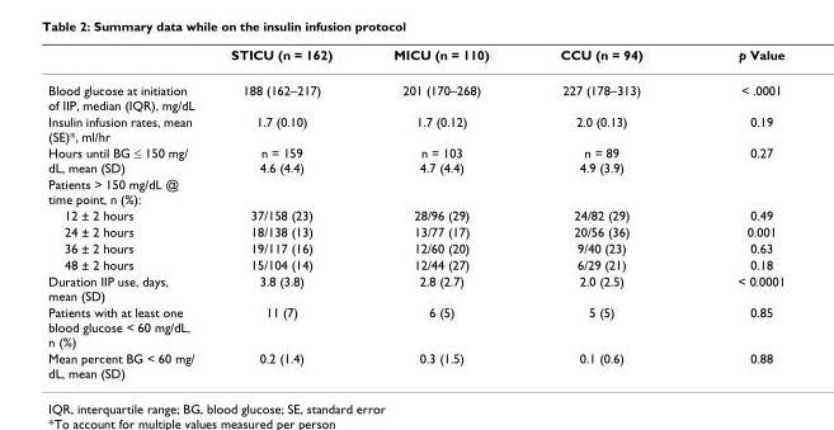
<table><thead><tr><td></td><td>STICU (n = 162)</td><td>MICU (n = 110)</td><td>CCU (n = 94)</td><td>p Value</td></tr></thead><tbody><tr><td>Blood glucose at initiation of IIP, median (IQR), mg/dL</td><td>188 (162–217)</td><td>201 (170–268)</td><td>227 (178–313)</td><td>&lt; .0001</td></tr><tr><td>Insulin infusion rates, mean (SE)*, ml/hr</td><td>1.7 (0.10)</td><td>1.7 (0.12)</td><td>2.0 (0.13)</td><td>0.19</td></tr><tr><td>Hours until BG ≤ 150 mg/ dL, mean (SD)</td><td>n = 159 4.6 (4.4)</td><td>n = 103 4.7 (4.4)</td><td>n = 89 4.9 (3.9)</td><td>0.27</td></tr><tr><td colspan="5">Patients &gt; 150 mg/dL @ time point, n (%):</td></tr><tr><td>12 ± 2 hours</td><td>37/158 (23)</td><td>28/96 (29)</td><td>24/82 (29)</td><td>0.49</td></tr><tr><td>24 ± 2 hours</td><td>18/138 (13)</td><td>13/77 (17)</td><td>20/56 (36)</td><td>0.001</td></tr><tr><td>36 ± 2 hours</td><td>19/117 (16)</td><td>12/60 (20)</td><td>9/40 (23)</td><td>0.63</td></tr><tr><td>48 ± 2 hours</td><td>15/104 (14)</td><td>12/44 (27)</td><td>6/29 (21)</td><td>0.18</td></tr><tr><td>Duration IIP use, days, mean (SD)</td><td>3.8 (3.8)</td><td>2.8 (2.7)</td><td>2.0 (2.5)</td><td>&lt; 0.0001</td></tr><tr><td>Patients with at least one blood glucose &lt; 60 mg/dL, n (%)</td><td>11 (7)</td><td>6 (5)</td><td>5 (5)</td><td>0.85</td></tr><tr><td>Mean percent BG &lt; 60 mg/ dL, mean (SD)</td><td>0.2 (1.4)</td><td>0.3 (1.5)</td><td>0.1 (0.6)</td><td>0.88</td></tr></tbody></table>